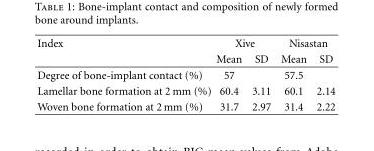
<table><thead><tr><td rowspan="2">Index</td><td colspan="2">Xive</td><td colspan="2">Nisastan</td></tr><tr><td>Mean</td><td>SD</td><td>Mean</td><td>SD</td></tr></thead><tbody><tr><td>Degree of bone-implant contact (%)</td><td>57</td><td></td><td>57.5</td><td></td></tr><tr><td>Lamellar bone formation at 2 mm (%)</td><td>60.4</td><td>3.11</td><td>60.1</td><td>2.14</td></tr><tr><td>Woven bone formation at 2 mm (%)</td><td>31.7</td><td>2.97</td><td>31.4</td><td>2.22</td></tr></tbody></table>